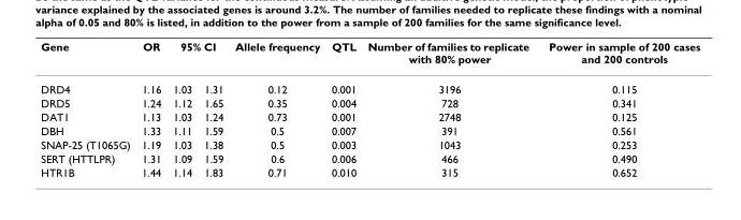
<table><thead><tr><td rowspan="2">Gene DRD4</td><td rowspan="2">OR 1.16</td><td colspan="2">95% CI</td><td rowspan="2">Allele frequency 0.12</td><td rowspan="2">QTL 0.001</td><td rowspan="2">Number of families to replicate with 80% power 3196</td><td rowspan="2">Power in sample of 200 cases and 200 controls 0.115</td></tr><tr><td>1.03</td><td>1.31</td></tr></thead><tbody><tr><td>DRD5</td><td>1.24</td><td>1.12</td><td>1.65</td><td>0.35</td><td>0.004</td><td>728</td><td>0.341</td></tr><tr><td>DAT1</td><td>1.13</td><td>1.03</td><td>1.24</td><td>0.73</td><td>0.001</td><td>2748</td><td>0.125</td></tr><tr><td>DBH</td><td>1.33</td><td>1.11</td><td>1.59</td><td>0.5</td><td>0.007</td><td>391</td><td>0.561</td></tr><tr><td>SNAP-25 (T1065G)</td><td>1.19</td><td>1.03</td><td>1.38</td><td>0.5</td><td>0.003</td><td>1043</td><td>0.253</td></tr><tr><td>SERT (HTTLPR)</td><td>1.31</td><td>1.09</td><td>1.59</td><td>0.6</td><td>0.006</td><td>466</td><td>0.490</td></tr><tr><td>HTR1B</td><td>1.44</td><td>1.14</td><td>1.83</td><td>0.71</td><td>0.010</td><td>315</td><td>0.652</td></tr></tbody></table>